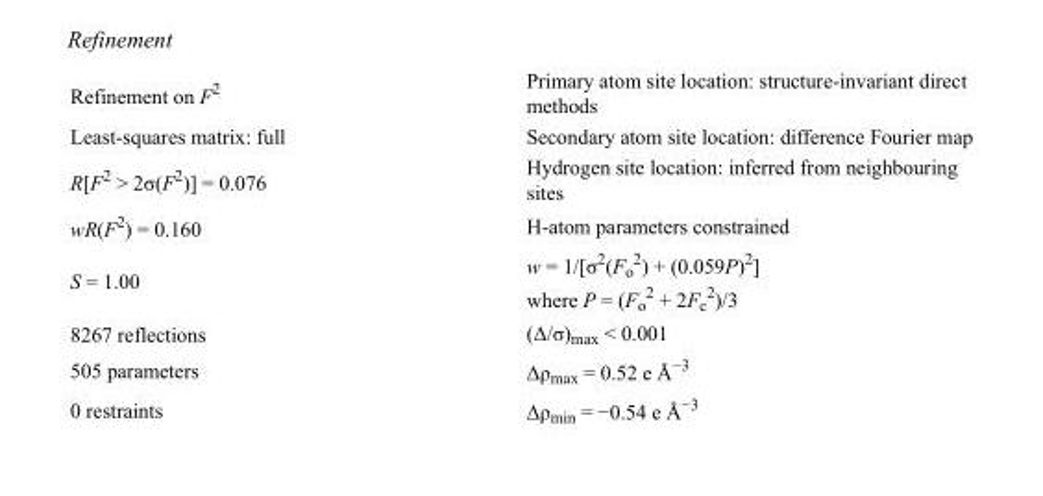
<table><tbody><tr><td>Refinement on F<sup>2</sup></td><td>Primary atom site location: structure-invariant direct methods</td></tr><tr><td>Least-squares matrix: full</td><td>Secondary atom site location: difference Fourier map</td></tr><tr><td>R[F<sup>2</sup> &gt; 2σ(F<sup>2</sup>)] = 0.076</td><td>Hydrogen site location: inferred from neighbouring sites</td></tr><tr><td>wR(F<sup>2</sup>) = 0.160</td><td>H-atom parameters constrained</td></tr><tr><td>S = 1.00</td><td>w = 1/[σ<sup>2</sup>(F<sub>o</sub> <sup>2</sup>) + (0.059P)<sup>2</sup>] where P = (F<sub>o</sub> <sup>2</sup> + 2F<sub>c</sub> <sup>2</sup>)/3</td></tr><tr><td>8267 reflections</td><td>(Δ/σ)<sub>max</sub> &lt; 0.001</td></tr><tr><td>505 parameters</td><td>Δρ<sub>max</sub> = 0.52 e Å<sup>−3</sup></td></tr><tr><td>0 restraints</td><td>Δρ<sub>min</sub> = −0.54 e Å<sup>−3</sup></td></tr></tbody></table>